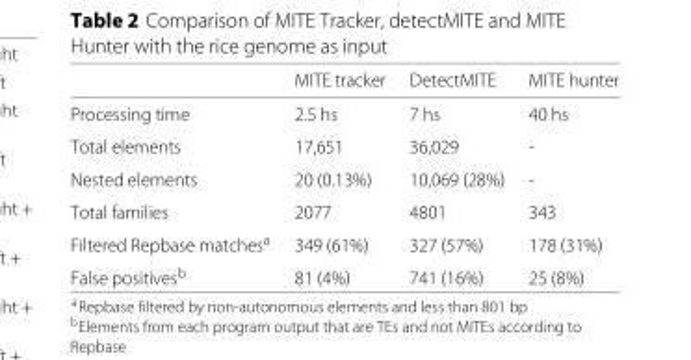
<table><thead><tr><td></td><td>MITE tracker</td><td>DetectMITE</td><td>MITE hunter</td></tr></thead><tbody><tr><td>Processing time</td><td>2.5 hs</td><td>7 hs</td><td>40 hs</td></tr><tr><td>Total elements</td><td>17,651</td><td>36,029</td><td>-</td></tr><tr><td>Nested elements</td><td>20 (0.13%)</td><td>10,069 (28%)</td><td>-</td></tr><tr><td>Total families</td><td>2077</td><td>4801</td><td>343</td></tr><tr><td>Filtered Repbase matches<sup>a</sup></td><td>349 (61%)</td><td>327 (57%)</td><td>178 (31%)</td></tr><tr><td>False positives<sup>b</sup></td><td>81 (4%)</td><td>741 (16%)</td><td>25 (8%)</td></tr></tbody></table>